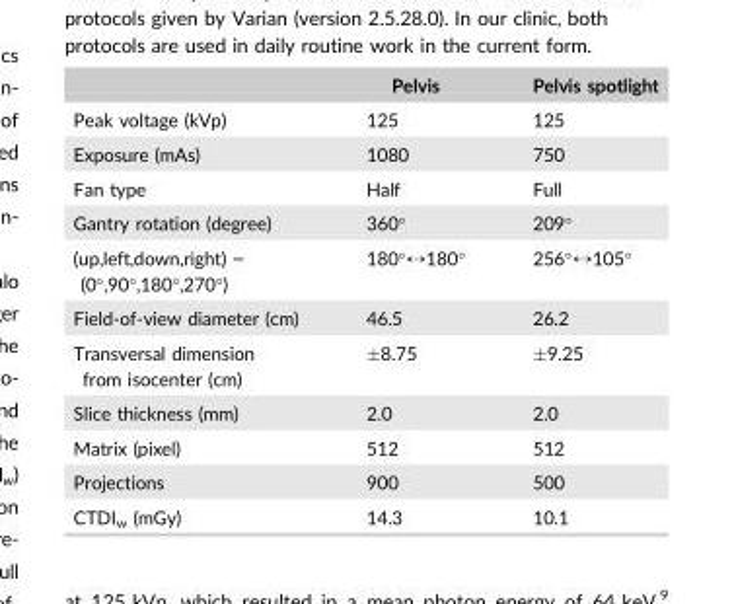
<table><thead><tr><td></td><td>Pelvis</td><td>Pelvis spotlight</td></tr></thead><tbody><tr><td>Peak voltage (kVp)</td><td>125</td><td>125</td></tr><tr><td>Exposure (mAs)</td><td>1080</td><td>750</td></tr><tr><td>Fan type</td><td>Half</td><td>Full</td></tr><tr><td>Gantry rotation (degree)</td><td>360°</td><td>209°</td></tr><tr><td>(up,left,down,right) = (0°,90°,180°,270°)</td><td>180°↔180°</td><td>256°↔105°</td></tr><tr><td>Field-of-view diameter (cm)</td><td>46.5</td><td>26.2</td></tr><tr><td>Transversal dimension from isocenter (cm)</td><td>±8.75</td><td>±9.25</td></tr><tr><td>Slice thickness (mm)</td><td>2.0</td><td>2.0</td></tr><tr><td>Matrix (pixel)</td><td>512</td><td>512</td></tr><tr><td>Projections</td><td>900</td><td>500</td></tr><tr><td>CTDI<sub>w</sub> (mGy)</td><td>14.3</td><td>10.1</td></tr></tbody></table>